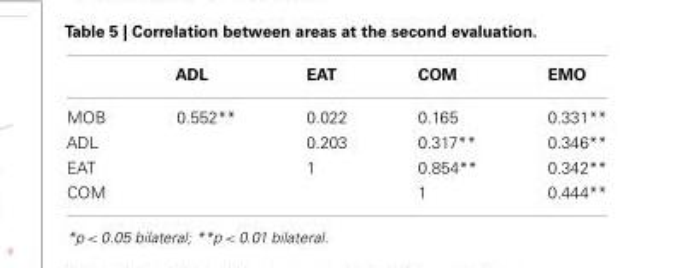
<table><thead><tr><td></td><td>ADL</td><td>EAT</td><td>COM</td><td>EMO</td></tr></thead><tbody><tr><td>MOB</td><td>0.552**</td><td>0.022</td><td>0.165</td><td>0.331**</td></tr><tr><td>ADL</td><td></td><td>0.203</td><td>0.317**</td><td>0.346**</td></tr><tr><td>EAT</td><td></td><td>1</td><td>0.854**</td><td>0.342**</td></tr><tr><td>COM</td><td></td><td></td><td>1</td><td>0.444**</td></tr></tbody></table>